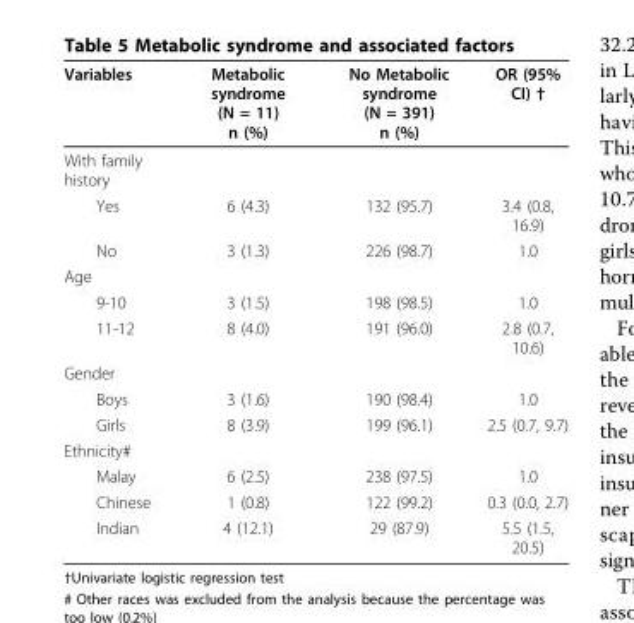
<table><thead><tr><td>Variables</td><td>Metabolic syndrome (N = 11) n (%)</td><td>No Metabolic syndrome (N = 391) n (%)</td><td>OR (95% CI) †</td></tr></thead><tbody><tr><td colspan="4">With family history</td></tr><tr><td>Yes</td><td>6 (4.3)</td><td>132 (95.7)</td><td>3.4 (0.8, 16.9)</td></tr><tr><td>No</td><td>3 (1.3)</td><td>226 (98.7)</td><td>1.0</td></tr><tr><td colspan="4">Age</td></tr><tr><td>9-10</td><td>3 (1.5)</td><td>198 (98.5)</td><td>1.0</td></tr><tr><td>11-12</td><td>8 (4.0)</td><td>191 (96.0)</td><td>2.8 (0.7, 10.6)</td></tr><tr><td colspan="4">Gender</td></tr><tr><td>Boys</td><td>3 (1.6)</td><td>190 (98.4)</td><td>1.0</td></tr><tr><td>Girls</td><td>8 (3.9)</td><td>199 (96.1)</td><td>2.5 (0.7, 9.7)</td></tr><tr><td colspan="4">Ethnicity#</td></tr><tr><td>Malay</td><td>6 (2.5)</td><td>238 (97.5)</td><td>1.0</td></tr><tr><td>Chinese</td><td>1 (0.8)</td><td>122 (99.2)</td><td>0.3 (0.0, 2.7)</td></tr><tr><td>Indian</td><td>4 (12.1)</td><td>29 (87.9)</td><td>5.5 (1.5, 20.5)</td></tr></tbody></table>